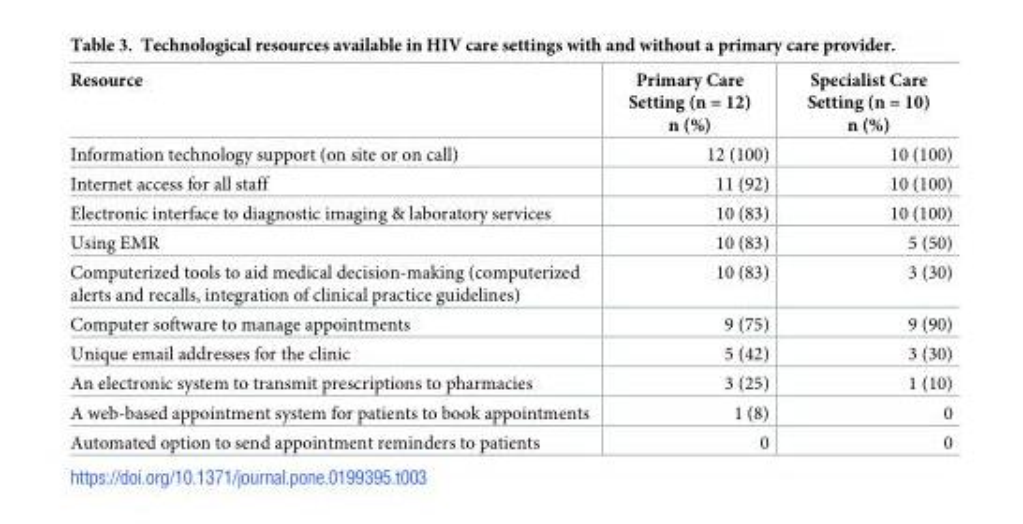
<table><thead><tr><td>Resource</td><td>Primary Care Setting (n = 12) n (%)</td><td>Specialist Care Setting (n = 10) n (%)</td></tr></thead><tbody><tr><td>Information technology support (on site or on call)</td><td>12 (100)</td><td>10 (100)</td></tr><tr><td>Internet access for all staff</td><td>11 (92)</td><td>10 (100)</td></tr><tr><td>Electronic interface to diagnostic imaging &amp; laboratory services</td><td>10 (83)</td><td>10 (100)</td></tr><tr><td>Using EMR</td><td>10 (83)</td><td>5 (50)</td></tr><tr><td>Computerized tools to aid medical decision-making (computerized alerts and recalls, integration of clinical practice guidelines)</td><td>10 (83)</td><td>3 (30)</td></tr><tr><td>Computer software to manage appointments</td><td>9 (75)</td><td>9 (90)</td></tr><tr><td>Unique email addresses for the clinic</td><td>5 (42)</td><td>3 (30)</td></tr><tr><td>An electronic system to transmit prescriptions to pharmacies</td><td>3 (25)</td><td>1 (10)</td></tr><tr><td>A web-based appointment system for patients to book appointments</td><td>1 (8)</td><td>0</td></tr><tr><td>Automated option to send appointment reminders to patients</td><td>0</td><td>0</td></tr></tbody></table>